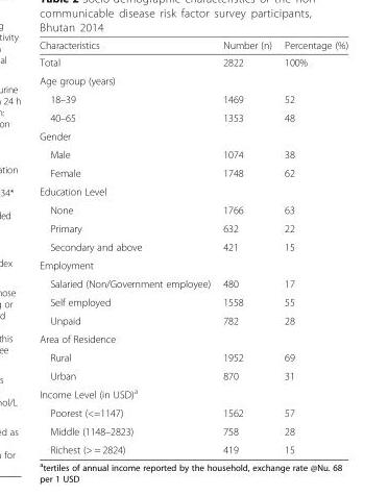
<table><thead><tr><td>Characteristics</td><td>Number (n)</td><td>Percentage (%)</td></tr></thead><tbody><tr><td>Total</td><td>2822</td><td>100%</td></tr><tr><td colspan="3">Age group (years)</td></tr><tr><td>18–39</td><td>1469</td><td>52</td></tr><tr><td>40–65</td><td>1353</td><td>48</td></tr><tr><td colspan="3">Gender</td></tr><tr><td>Male</td><td>1074</td><td>38</td></tr><tr><td>Female</td><td>1748</td><td>62</td></tr><tr><td colspan="3">Education Level</td></tr><tr><td>None</td><td>1766</td><td>63</td></tr><tr><td>Primary</td><td>632</td><td>22</td></tr><tr><td>Secondary and above</td><td>421</td><td>15</td></tr><tr><td colspan="3">Employment</td></tr><tr><td>Salaried (Non/Government employee)</td><td>480</td><td>17</td></tr><tr><td>Self employed</td><td>1558</td><td>55</td></tr><tr><td>Unpaid</td><td>782</td><td>28</td></tr><tr><td colspan="3">Area of Residence</td></tr><tr><td>Rural</td><td>1952</td><td>69</td></tr><tr><td>Urban</td><td>870</td><td>31</td></tr><tr><td colspan="3">Income Level (in USD)<sup>a</sup></td></tr><tr><td>Poorest (&lt;=1147)</td><td>1562</td><td>57</td></tr><tr><td>Middle (1148–2823)</td><td>758</td><td>28</td></tr><tr><td>Richest (&gt; = 2824)</td><td>419</td><td>15</td></tr></tbody></table>